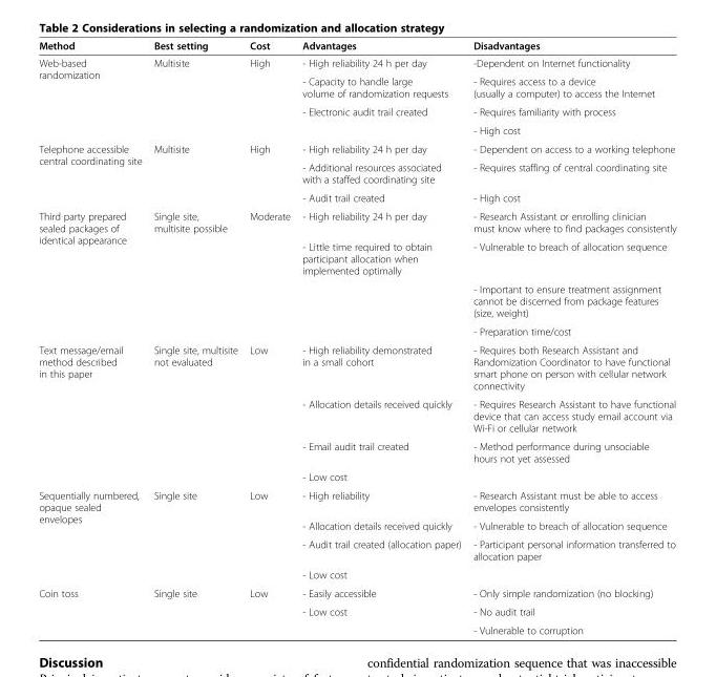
<table><thead><tr><td>Method</td><td>Best setting</td><td>Cost</td><td>Advantages</td><td>Disadvantages</td></tr></thead><tbody><tr><td rowspan="4">Web-based randomization</td><td rowspan="4">Multisite</td><td rowspan="4">High</td><td>- High reliability 24 h per day</td><td>-Dependent on Internet functionality</td></tr><tr><td>- Capacity to handle large volume of randomization requests</td><td>- Requires access to a device (usually a computer) to access the Internet</td></tr><tr><td>- Electronic audit trail created</td><td>- Requires familiarity with process</td></tr><tr><td></td><td>- High cost</td></tr><tr><td rowspan="3">Telephone accessible central coordinating site</td><td rowspan="3">Multisite</td><td rowspan="3">High</td><td>- High reliability 24 h per day</td><td>- Dependent on access to a working telephone</td></tr><tr><td>- Additional resources associated with a staffed coordinating site</td><td>- Requires staffing of central coordinating site</td></tr><tr><td>- Audit trail created</td><td>- High cost</td></tr><tr><td rowspan="4">Third party prepared sealed packages of identical appearance</td><td rowspan="4">Single site, multisite possible</td><td rowspan="4">Moderate</td><td>- High reliability 24 h per day</td><td>- Research Assistant or enrolling clinician must know where to find packages consistently</td></tr><tr><td>- Little time required to obtain participant allocation when implemented optimally</td><td>- Vulnerable to breach of allocation sequence</td></tr><tr><td></td><td>- Important to ensure treatment assignment cannot be discerned from package features (size, weight)</td></tr><tr><td></td><td>- Preparation time/cost</td></tr><tr><td rowspan="4">Text message/email method described in this paper</td><td rowspan="4">Single site, multisite not evaluated</td><td rowspan="4">Low</td><td>- High reliability demonstrated in a small cohort</td><td>- Requires both Research Assistant and Randomization Coordinator to have functional smart phone on person with cellular network connectivity</td></tr><tr><td>- Allocation details received quickly</td><td>- Requires Research Assistant to have functional device that can access study email account via Wi-Fi or cellular network</td></tr><tr><td>- Email audit trail created</td><td>- Method performance during unsociable hours not yet assessed</td></tr><tr><td>- Low cost</td><td></td></tr><tr><td rowspan="4">Sequentially numbered, opaque sealed envelopes</td><td rowspan="4">Single site</td><td rowspan="4">Low</td><td>- High reliability</td><td>- Research Assistant must be able to access envelopes consistently</td></tr><tr><td>- Allocation details received quickly</td><td>- Vulnerable to breach of allocation sequence</td></tr><tr><td>- Audit trail created (allocation paper)</td><td>- Participant personal information transferred to allocation paper</td></tr><tr><td>- Low cost</td><td></td></tr><tr><td rowspan="3">Coin toss</td><td rowspan="2">Single site</td><td rowspan="2">Low</td><td>- Easily accessible</td><td>- Only simple randomization (no blocking)</td></tr><tr><td>- Low cost</td><td>- No audit trail</td></tr><tr><td></td><td></td><td></td><td>- Vulnerable to corruption</td></tr></tbody></table>